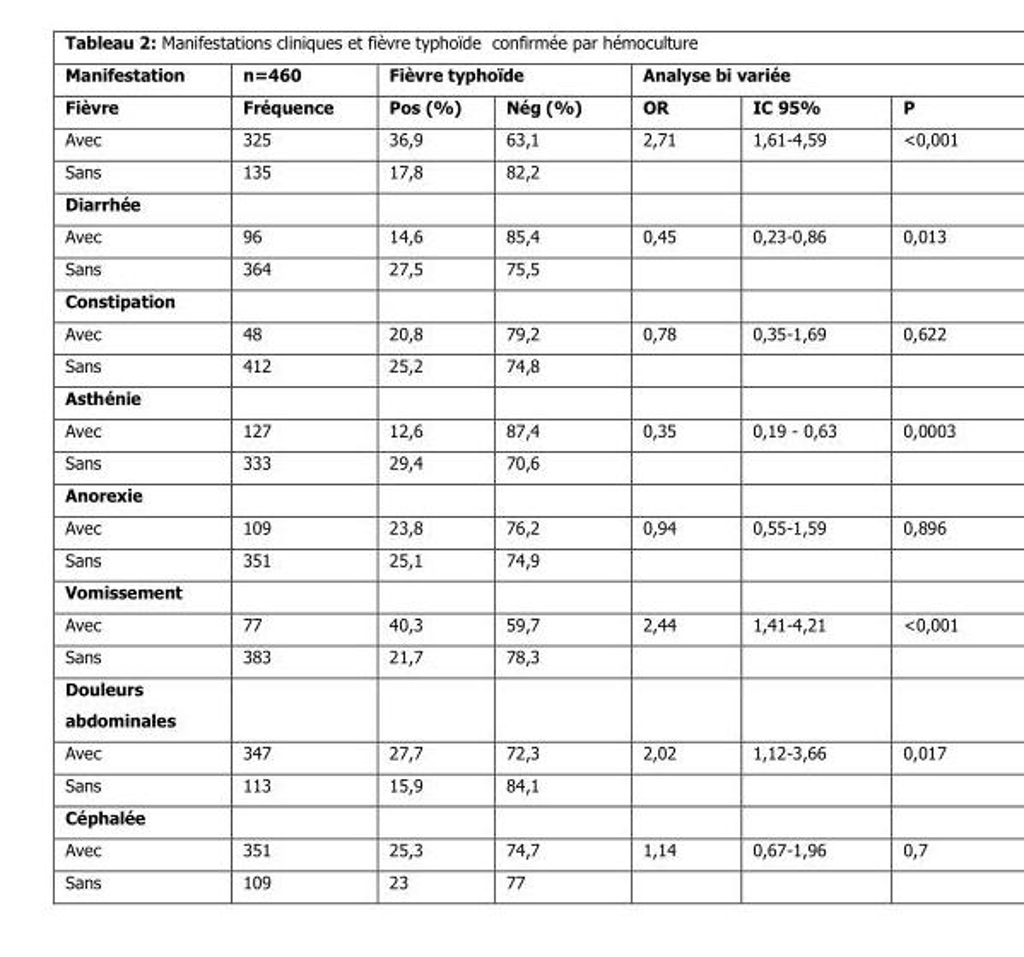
<table><thead><tr><td rowspan="2">Manifestation Fièvre</td><td rowspan="2">n=460 Fréquence</td><td colspan="2">Fièvre typhoïde</td><td colspan="3">Analyse bi variée</td></tr><tr><td>Pos (%)</td><td>Nég (%)</td><td>OR</td><td>IC 95%</td><td>P</td></tr></thead><tbody><tr><td>Avec</td><td>325</td><td>36,9</td><td>63,1</td><td>2,71</td><td>1,61-4,59</td><td>&lt;0,001</td></tr><tr><td>Sans</td><td>135</td><td>17,8</td><td>82,2</td><td></td><td></td><td></td></tr><tr><td colspan="7">Diarrhée</td></tr><tr><td>Avec</td><td>96</td><td>14,6</td><td>85,4</td><td>0,45</td><td>0,23-0,86</td><td>0,013</td></tr><tr><td>Sans</td><td>364</td><td>27,5</td><td>75,5</td><td></td><td></td><td></td></tr><tr><td colspan="7">Constipation</td></tr><tr><td>Avec</td><td>48</td><td>20,8</td><td>79,2</td><td>0,78</td><td>0,35-1,69</td><td>0,622</td></tr><tr><td>Sans</td><td>412</td><td>25,2</td><td>74,8</td><td></td><td></td><td></td></tr><tr><td colspan="7">Asthénie</td></tr><tr><td>Avec</td><td>127</td><td>12,6</td><td>87,4</td><td>0,35</td><td>0,19 - 0,63</td><td>0,0003</td></tr><tr><td>Sans</td><td>333</td><td>29,4</td><td>70,6</td><td></td><td></td><td></td></tr><tr><td colspan="7">Anorexie</td></tr><tr><td>Avec</td><td>109</td><td>23,8</td><td>76,2</td><td>0,94</td><td>0,55-1,59</td><td>0,896</td></tr><tr><td>Sans</td><td>351</td><td>25,1</td><td>74,9</td><td></td><td></td><td></td></tr><tr><td colspan="7">Vomissement</td></tr><tr><td>Avec</td><td>77</td><td>40,3</td><td>59,7</td><td>2,44</td><td>1,41-4,21</td><td>&lt;0,001</td></tr><tr><td>Sans</td><td>383</td><td>21,7</td><td>78,3</td><td></td><td></td><td></td></tr><tr><td colspan="7">Douleurs abdominales</td></tr><tr><td>Avec</td><td>347</td><td>27,7</td><td>72,3</td><td>2,02</td><td>1,12-3,66</td><td>0,017</td></tr><tr><td>Sans</td><td>113</td><td>15,9</td><td>84,1</td><td></td><td></td><td></td></tr><tr><td colspan="7">Céphalée</td></tr><tr><td>Avec</td><td>351</td><td>25,3</td><td>74,7</td><td>1,14</td><td>0,67-1,96</td><td>0,7</td></tr><tr><td>Sans</td><td>109</td><td>23</td><td>77</td><td></td><td></td><td></td></tr></tbody></table>